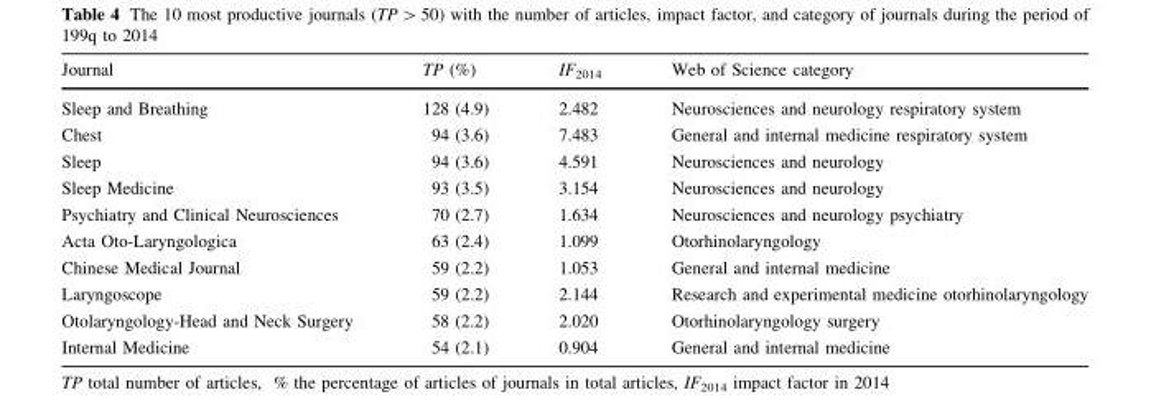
<table><thead><tr><td>Journal</td><td>TP (%)</td><td>IF<sub>2014</sub></td><td>Web of Science category</td></tr></thead><tbody><tr><td>Sleep and Breathing</td><td>128 (4.9)</td><td>2.482</td><td>Neurosciences and neurology respiratory system</td></tr><tr><td>Chest</td><td>94 (3.6)</td><td>7.483</td><td>General and internal medicine respiratory system</td></tr><tr><td>Sleep</td><td>94 (3.6)</td><td>4.591</td><td>Neurosciences and neurology</td></tr><tr><td>Sleep Medicine</td><td>93 (3.5)</td><td>3.154</td><td>Neurosciences and neurology</td></tr><tr><td>Psychiatry and Clinical Neurosciences</td><td>70 (2.7)</td><td>1.634</td><td>Neurosciences and neurology psychiatry</td></tr><tr><td>Acta Oto-Laryngologica</td><td>63 (2.4)</td><td>1.099</td><td>Otorhinolaryngology</td></tr><tr><td>Chinese Medical Journal</td><td>59 (2.2)</td><td>1.053</td><td>General and internal medicine</td></tr><tr><td>Laryngoscope</td><td>59 (2.2)</td><td>2.144</td><td>Research and experimental medicine otorhinolaryngology</td></tr><tr><td>Otolaryngology-Head and Neck Surgery</td><td>58 (2.2)</td><td>2.020</td><td>Otorhinolaryngology surgery</td></tr><tr><td>Internal Medicine</td><td>54 (2.1)</td><td>0.904</td><td>General and internal medicine</td></tr></tbody></table>